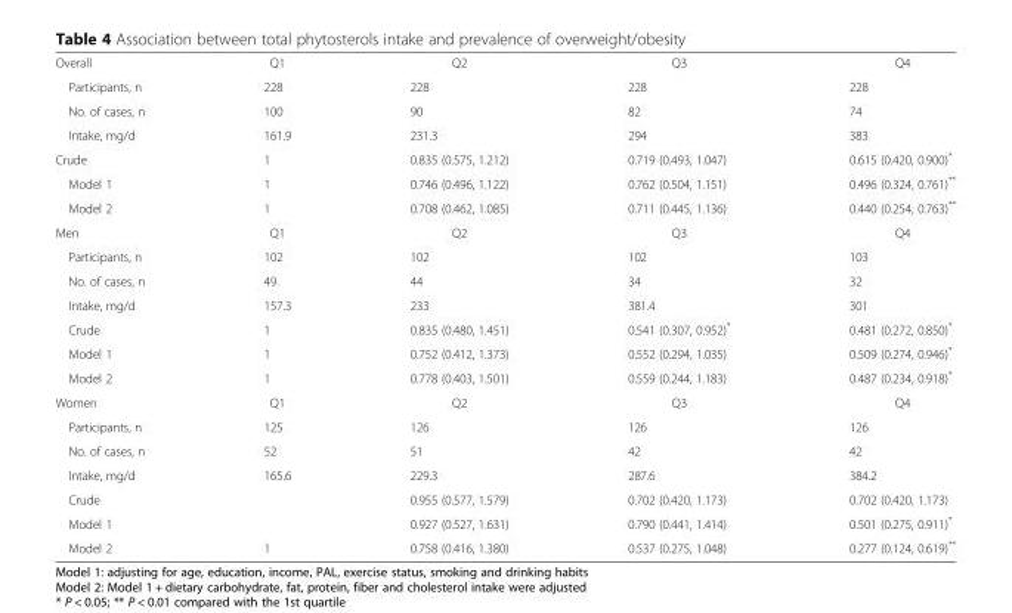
<table><tbody><tr><td>Overall</td><td>Q1</td><td>Q2</td><td>Q3</td><td>Q4</td></tr><tr><td>Participants, n</td><td>228</td><td>228</td><td>228</td><td>228</td></tr><tr><td>No. of cases, n</td><td>100</td><td>90</td><td>82</td><td>74</td></tr><tr><td>Intake, mg/d</td><td>161.9</td><td>231.3</td><td>294</td><td>383</td></tr><tr><td>Crude</td><td>1</td><td>0.835 (0.575, 1.212)</td><td>0.719 (0.493, 1.047)</td><td>0.615 (0.420, 0.900)*</td></tr><tr><td>Model 1</td><td>1</td><td>0.746 (0.496, 1.122)</td><td>0.762 (0.504, 1.151)</td><td>0.496 (0.324, 0.761)**</td></tr><tr><td>Model 2</td><td>1</td><td>0.708 (0.462, 1.085)</td><td>0.711 (0.445, 1.136)</td><td>0.440 (0.254, 0.763)**</td></tr><tr><td>Men</td><td>Q1</td><td>Q2</td><td>Q3</td><td>Q4</td></tr><tr><td>Participants, n</td><td>102</td><td>102</td><td>102</td><td>103</td></tr><tr><td>No. of cases, n</td><td>49</td><td>44</td><td>34</td><td>32</td></tr><tr><td>Intake, mg/d</td><td>157.3</td><td>233</td><td>381.4</td><td>301</td></tr><tr><td>Crude</td><td>1</td><td>0.835 (0.480, 1.451)</td><td>0.541 (0.307, 0.952)*</td><td>0.481 (0.272, 0.850)*</td></tr><tr><td>Model 1</td><td>1</td><td>0.752 (0.412, 1.373)</td><td>0.552 (0.294, 1.035)</td><td>0.509 (0.274, 0.946)*</td></tr><tr><td>Model 2</td><td>1</td><td>0.778 (0.403, 1.501)</td><td>0.559 (0.244, 1.183)</td><td>0.487 (0.234, 0.918)*</td></tr><tr><td>Women</td><td>Q1</td><td>Q2</td><td>Q3</td><td>Q4</td></tr><tr><td>Participants, n</td><td>125</td><td>126</td><td>126</td><td>126</td></tr><tr><td>No. of cases, n</td><td>52</td><td>51</td><td>42</td><td>42</td></tr><tr><td>Intake, mg/d</td><td>165.6</td><td>229.3</td><td>287.6</td><td>384.2</td></tr><tr><td>Crude</td><td></td><td>0.955 (0.577, 1.579)</td><td>0.702 (0.420, 1.173)</td><td>0.702 (0.420, 1.173)</td></tr><tr><td>Model 1</td><td></td><td>0.927 (0.527, 1.631)</td><td>0.790 (0.441, 1.414)</td><td>0.501 (0.275, 0.911)*</td></tr><tr><td>Model 2</td><td>1</td><td>0.758 (0.416, 1.380)</td><td>0.537 (0.275, 1.048)</td><td>0.277 (0.124, 0.619)**</td></tr></tbody></table>